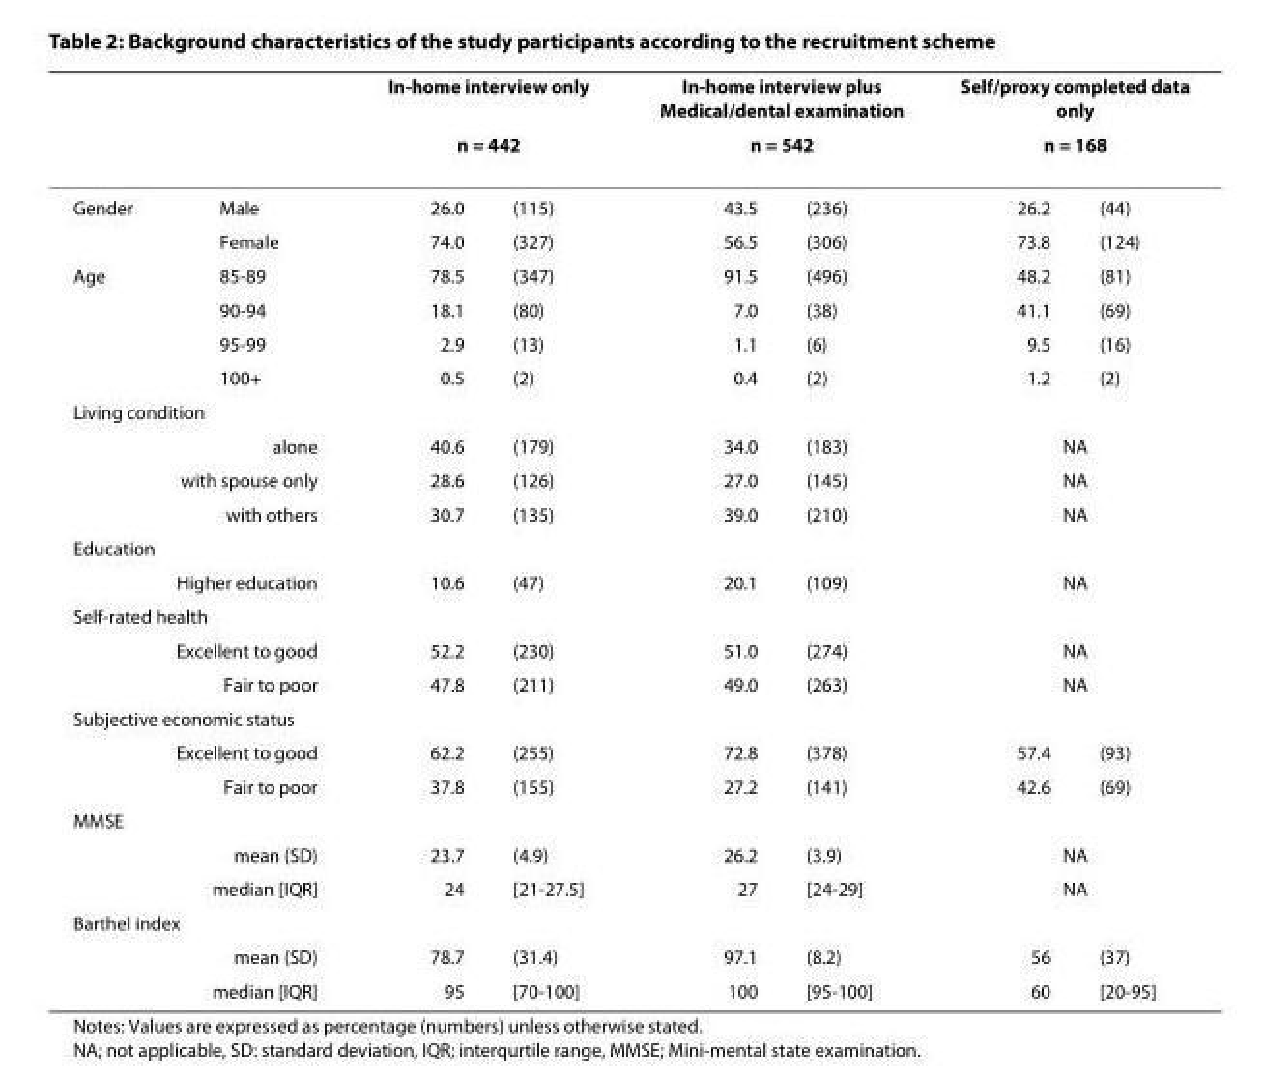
<table><thead><tr><td rowspan="3">Gender</td><td rowspan="3">Male</td><td rowspan="2" colspan="2">In-home interview only n = 442</td><td rowspan="2" colspan="2">In-home interview plus Medical/dental examination n = 542</td><td rowspan="2" colspan="2">Self/proxy completed data only n = 168</td></tr><tr></tr><tr><td>26.0</td><td>(115)</td><td>43.5</td><td>(236)</td><td>26.2</td><td>(44)</td></tr></thead><tbody><tr><td></td><td>Female</td><td>74.0</td><td>(327)</td><td>56.5</td><td>(306)</td><td>73.8</td><td>(124)</td></tr><tr><td rowspan="4">Age</td><td>85-89</td><td>78.5</td><td>(347)</td><td>91.5</td><td>(496)</td><td>48.2</td><td>(81)</td></tr><tr><td>90-94</td><td>18.1</td><td>(80)</td><td>7.0</td><td>(38)</td><td>41.1</td><td>(69)</td></tr><tr><td>95-99</td><td>2.9</td><td>(13)</td><td>1.1</td><td>(6)</td><td>9.5</td><td>(16)</td></tr><tr><td>100+</td><td>0.5</td><td>(2)</td><td>0.4</td><td>(2)</td><td>1.2</td><td>(2)</td></tr><tr><td colspan="8">Living condition</td></tr><tr><td colspan="2">alone</td><td>40.6</td><td>(179)</td><td>34.0</td><td>(183)</td><td colspan="2">NA</td></tr><tr><td colspan="2">with spouse only</td><td>28.6</td><td>(126)</td><td>27.0</td><td>(145)</td><td colspan="2">NA</td></tr><tr><td colspan="2">with others</td><td>30.7</td><td>(135)</td><td>39.0</td><td>(210)</td><td colspan="2">NA</td></tr><tr><td colspan="8">Education</td></tr><tr><td colspan="2">Higher education</td><td>10.6</td><td>(47)</td><td>20.1</td><td>(109)</td><td colspan="2">NA</td></tr><tr><td colspan="8">Self-rated health</td></tr><tr><td colspan="2">Excellent to good</td><td>52.2</td><td>(230)</td><td>51.0</td><td>(274)</td><td colspan="2">NA</td></tr><tr><td colspan="2">Fair to poor</td><td>47.8</td><td>(211)</td><td>49.0</td><td>(263)</td><td colspan="2">NA</td></tr><tr><td colspan="8">Subjective economic status</td></tr><tr><td colspan="2">Excellent to good</td><td>62.2</td><td>(255)</td><td>72.8</td><td>(378)</td><td>57.4</td><td>(93)</td></tr><tr><td colspan="2">Fair to poor</td><td>37.8</td><td>(155)</td><td>27.2</td><td>(141)</td><td>42.6</td><td>(69)</td></tr><tr><td colspan="8">MMSE</td></tr><tr><td colspan="2">mean (SD)</td><td>23.7</td><td>(4.9)</td><td>26.2</td><td>(3.9)</td><td colspan="2">NA</td></tr><tr><td colspan="2">median [IQR]</td><td>24</td><td>[21-27.5]</td><td>27</td><td>[24-29]</td><td colspan="2">NA</td></tr><tr><td colspan="8">Barthel index</td></tr><tr><td colspan="2">mean (SD)</td><td>78.7</td><td>(31.4)</td><td>97.1</td><td>(8.2)</td><td>56</td><td>(37)</td></tr><tr><td colspan="2">median [IQR]</td><td>95</td><td>[70-100]</td><td>100</td><td>[95-100]</td><td>60</td><td>[20-95]</td></tr></tbody></table>